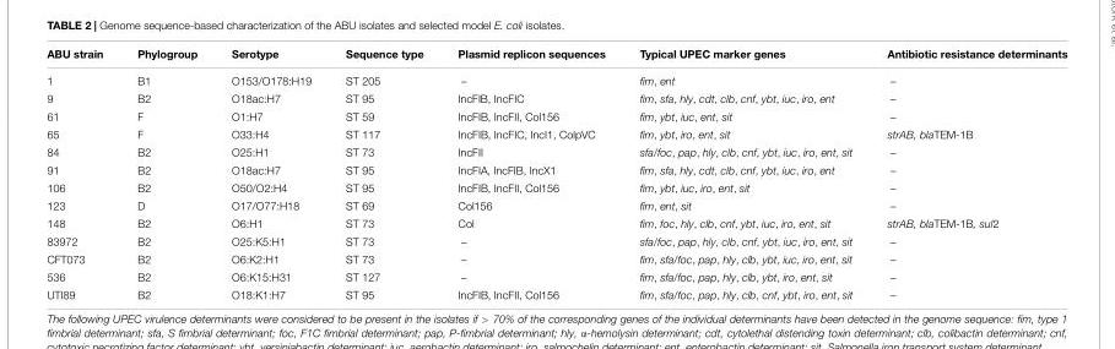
<table><thead><tr><td>ABU strain</td><td>Phylogroup</td><td>Serotype</td><td>Sequence type</td><td>Plasmid replicon sequences</td><td>Typical UPEC marker genes</td><td>Antibiotic resistance determinants</td></tr></thead><tbody><tr><td>1</td><td>B1</td><td>O153/O178:H19</td><td>ST 205</td><td>–</td><td>fim, ent</td><td>–</td></tr><tr><td>9</td><td>B2</td><td>O18ac:H7</td><td>ST 95</td><td>IncFIB, IncFIC</td><td>fim, sfa, hly, cdt, clb, cnf, ybt, iuc, iro, ent</td><td>–</td></tr><tr><td>61</td><td>F</td><td>O1:H7</td><td>ST 59</td><td>IncFIB, IncFII, Col156</td><td>fim, ybt, iuc, ent, sit</td><td>–</td></tr><tr><td>65</td><td>F</td><td>O33:H4</td><td>ST 117</td><td>IncFIB, IncFIC, IncI1, ColpVC</td><td>fim, ybt, iro, ent, sit</td><td>strAB, blaTEM-1B</td></tr><tr><td>84</td><td>B2</td><td>O25:H1</td><td>ST 73</td><td>IncFII</td><td>sfa/foc, pap, hly, clb, cnf, ybt, iuc, iro, ent, sit</td><td>–</td></tr><tr><td>91</td><td>B2</td><td>O18ac:H7</td><td>ST 95</td><td>IncFIA, IncFIB, IncX1</td><td>fim, sfa, hly, cdt, clb, cnf, ybt, iuc, iro, ent</td><td>–</td></tr><tr><td>106</td><td>B2</td><td>O50/O2:H4</td><td>ST 95</td><td>IncFIB, IncFII, Col156</td><td>fim, ybt, iuc, iro, ent, sit</td><td>–</td></tr><tr><td>123</td><td>D</td><td>O17/O77:H18</td><td>ST 69</td><td>Col156</td><td>fim, ent, sit</td><td>–</td></tr><tr><td>148</td><td>B2</td><td>O6:H1</td><td>ST 73</td><td>Col</td><td>fim, foc, hly, clb, cnf, ybt, iuc, iro, ent, sit</td><td>strAB, blaTEM-1B, sul2</td></tr><tr><td>83972</td><td>B2</td><td>O25:K5:H1</td><td>ST 73</td><td>–</td><td>sfa/foc, pap, hly, clb, cnf, ybt, iuc, iro, ent, sit</td><td>–</td></tr><tr><td>CFT073</td><td>B2</td><td>O6:K2:H1</td><td>ST 73</td><td>–</td><td>fim, sfa/foc, pap, hly, clb, ybt, iuc, iro, ent, sit</td><td>–</td></tr><tr><td>536</td><td>B2</td><td>O6:K15:H31</td><td>ST 127</td><td>–</td><td>fim, sfa/foc, pap, hly, clb, ybt, iro, ent, sit</td><td>–</td></tr><tr><td>UTI89</td><td>B2</td><td>O18:K1:H7</td><td>ST 95</td><td>IncFIB, IncFII, Col156</td><td>fim, sfa/foc, pap, hly, clb, cnf, ybt, iro, ent, sit</td><td>–</td></tr></tbody></table>